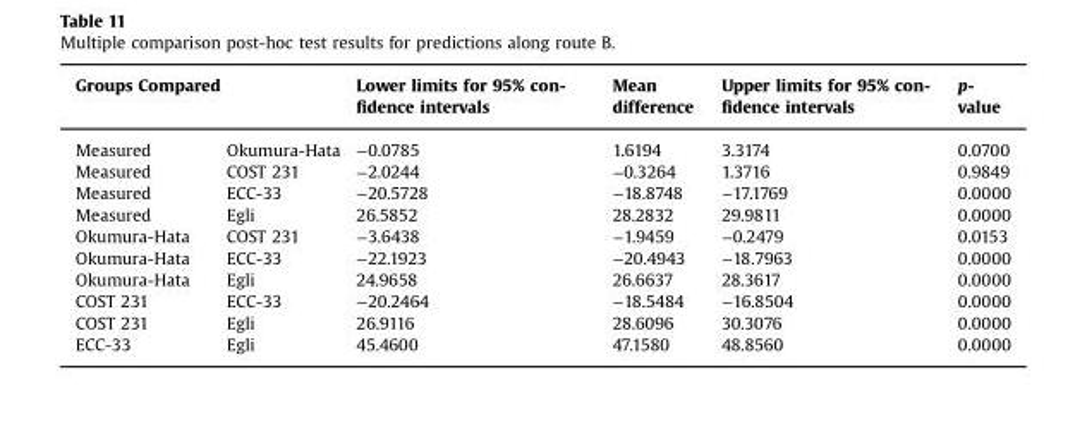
<table><thead><tr><td colspan="2">Groups Compared</td><td rowspan="2">Lower limits for 95% con- fidence intervals −0.0785</td><td rowspan="2">Mean difference 1.6194</td><td rowspan="2">Upper limits for 95% con- fidence intervals 3.3174</td><td rowspan="2">p- value 0.0700</td></tr><tr><td>Measured</td><td>Okumura-Hata</td></tr></thead><tbody><tr><td>Measured</td><td>COST 231</td><td>−2.0244</td><td>−0.3264</td><td>1.3716</td><td>0.9849</td></tr><tr><td>Measured</td><td>ECC-33</td><td>−20.5728</td><td>−18.8748</td><td>−17.1769</td><td>0.0000</td></tr><tr><td>Measured</td><td>Egli</td><td>26.5852</td><td>28.2832</td><td>29.9811</td><td>0.0000</td></tr><tr><td>Okumura-Hata</td><td>COST 231</td><td>−3.6438</td><td>−1.9459</td><td>−0.2479</td><td>0.0153</td></tr><tr><td>Okumura-Hata</td><td>ECC-33</td><td>−22.1923</td><td>−20.4943</td><td>−18.7963</td><td>0.0000</td></tr><tr><td>Okumura-Hata</td><td>Egli</td><td>24.9658</td><td>26.6637</td><td>28.3617</td><td>0.0000</td></tr><tr><td>COST 231</td><td>ECC-33</td><td>−20.2464</td><td>−18.5484</td><td>−16.8504</td><td>0.0000</td></tr><tr><td>COST 231</td><td>Egli</td><td>26.9116</td><td>28.6096</td><td>30.3076</td><td>0.0000</td></tr><tr><td>ECC-33</td><td>Egli</td><td>45.4600</td><td>47.1580</td><td>48.8560</td><td>0.0000</td></tr></tbody></table>